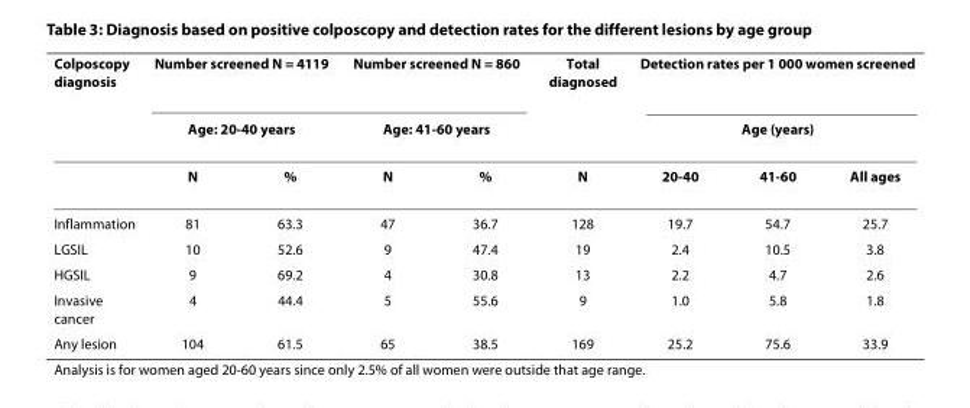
<table><thead><tr><td rowspan="3">Colposcopy diagnosis</td><td rowspan="2" colspan="2">Number screened N = 4119 Age: 20-40 years</td><td rowspan="2" colspan="2">Number screened N = 860 Age: 41-60 years</td><td rowspan="3">Total diagnosed N</td><td rowspan="2" colspan="3">Detection rates per 1 000 women screened Age (years)</td></tr><tr></tr><tr><td>N</td><td>%</td><td>N</td><td>%</td><td>20-40</td><td>41-60</td><td>All ages</td></tr></thead><tbody><tr><td>Inflammation</td><td>81</td><td>63.3</td><td>47</td><td>36.7</td><td>128</td><td>19.7</td><td>54.7</td><td>25.7</td></tr><tr><td>LGSIL</td><td>10</td><td>52.6</td><td>9</td><td>47.4</td><td>19</td><td>2.4</td><td>10.5</td><td>3.8</td></tr><tr><td>HGSIL</td><td>9</td><td>69.2</td><td>4</td><td>30.8</td><td>13</td><td>2.2</td><td>4.7</td><td>2.6</td></tr><tr><td>Invasive cancer</td><td>4</td><td>44.4</td><td>5</td><td>55.6</td><td>9</td><td>1.0</td><td>5.8</td><td>1.8</td></tr><tr><td>Any lesion</td><td>104</td><td>61.5</td><td>65</td><td>38.5</td><td>169</td><td>25.2</td><td>75.6</td><td>33.9</td></tr></tbody></table>